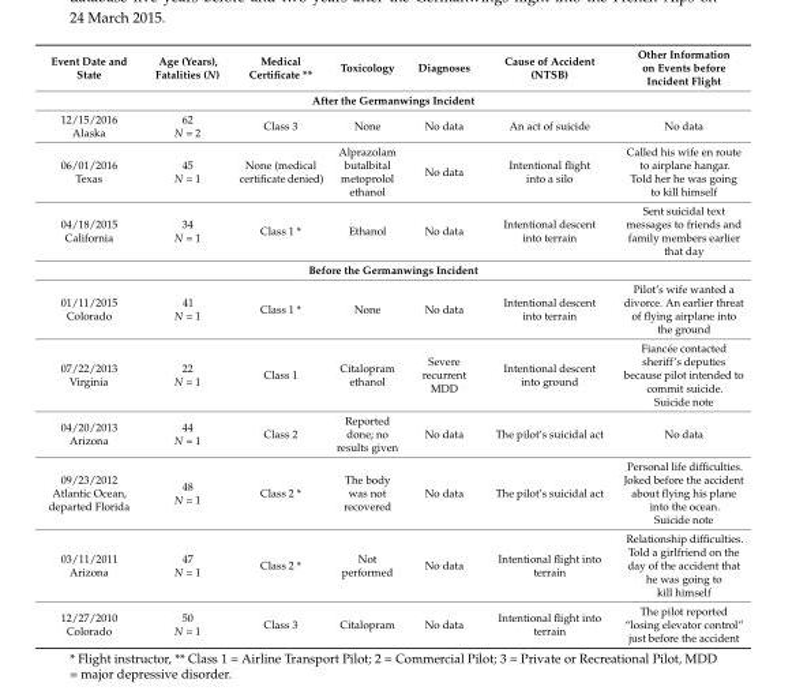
<table><thead><tr><td>Event Date and State</td><td>Age (Years), Fatalities (N)</td><td>Medical Certificate **</td><td>Toxicology</td><td>Diagnoses</td><td>Cause of Accident (NTSB)</td><td>Other Information on Events before Incident Flight</td></tr></thead><tbody><tr><td colspan="7">After the Germanwings Incident</td></tr><tr><td>12/15/2016 Alaska</td><td>62 N = 2</td><td>Class 3</td><td>None</td><td>No data</td><td>An act of suicide</td><td>No data</td></tr><tr><td>06/01/2016 Texas</td><td>45 N = 1</td><td>None (medical certificate denied)</td><td>Alprazolam butalbital metoprolol ethanol</td><td>No data</td><td>Intentional flight into a silo</td><td>Called his wife en route to airplane hangar. Told her he was going to kill himself</td></tr><tr><td>04/18/2015 California</td><td>34 N = 1</td><td>Class 1 *</td><td>Ethanol</td><td>No data</td><td>Intentional descent into terrain</td><td>Sent suicidal text messages to friends and family members earlier that day</td></tr><tr><td colspan="7">Before the Germanwings Incident</td></tr><tr><td>01/11/2015 Colorado</td><td>41 N = 1</td><td>Class 1 *</td><td>None</td><td>No data</td><td>Intentional descent into terrain</td><td>Pilot’s wife wanted a divorce. An earlier threat of flying airplane into the ground</td></tr><tr><td>07/22/2013 Virginia</td><td>22 N = 1</td><td>Class 1</td><td>Citalopram ethanol</td><td>Severe recurrent MDD</td><td>Intentional descent into ground</td><td>Fiancée contacted sheriff’s deputies because pilot intended to commit suicide. Suicide note</td></tr><tr><td>04/20/2013 Arizona</td><td>44 N = 1</td><td>Class 2</td><td>Reported done; no results given</td><td>No data</td><td>The pilot’s suicidal act</td><td>No data</td></tr><tr><td>09/23/2012 Atlantic Ocean, departed Florida</td><td>48 N = 1</td><td>Class 2 *</td><td>The body was not recovered</td><td>No data</td><td>The pilot’s suicidal act</td><td>Personal life difficulties. Joked before the accident about flying his plane into the ocean. Suicide note</td></tr><tr><td>03/11/2011 Arizona</td><td>47 N = 1</td><td>Class 2 *</td><td>Not performed</td><td>No data</td><td>Intentional flight into terrain</td><td>Relationship difficulties. Told a girlfriend on the day of the accident that he was going to kill himself</td></tr><tr><td>12/27/2010 Colorado</td><td>50 N = 1</td><td>Class 3</td><td>Citalopram</td><td>No data</td><td>Intentional flight into terrain</td><td>The pilot reported “losing elevator control” just before the accident</td></tr></tbody></table>